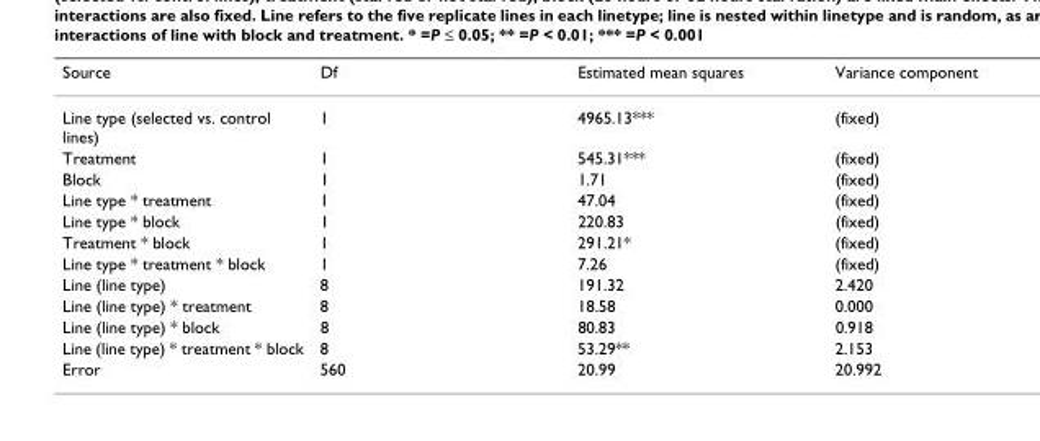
<table><thead><tr><td>Source</td><td>Df</td><td>Estimated mean squares</td><td>Variance component</td></tr></thead><tbody><tr><td>Line type (selected vs. control lines)</td><td>1</td><td>4965.13***</td><td>(fixed)</td></tr><tr><td>Treatment</td><td>1</td><td>545.31***</td><td>(fixed)</td></tr><tr><td>Block</td><td>1</td><td>1.71</td><td>(fixed)</td></tr><tr><td>Line type * treatment</td><td>1</td><td>47.04</td><td>(fixed)</td></tr><tr><td>Line type * block</td><td>1</td><td>220.83</td><td>(fixed)</td></tr><tr><td>Treatment * block</td><td>1</td><td>291.21*</td><td>(fixed)</td></tr><tr><td>Line type * treatment * block</td><td>1</td><td>7.26</td><td>(fixed)</td></tr><tr><td>Line (line type)</td><td>8</td><td>191.32</td><td>2.420</td></tr><tr><td>Line (line type) * treatment</td><td>8</td><td>18.58</td><td>0.000</td></tr><tr><td>Line (line type) * block</td><td>8</td><td>80.83</td><td>0.918</td></tr><tr><td>Line (line type) * treatment * block</td><td>8</td><td>53.29**</td><td>2.153</td></tr><tr><td>Error</td><td>560</td><td>20.99</td><td>20.992</td></tr></tbody></table>